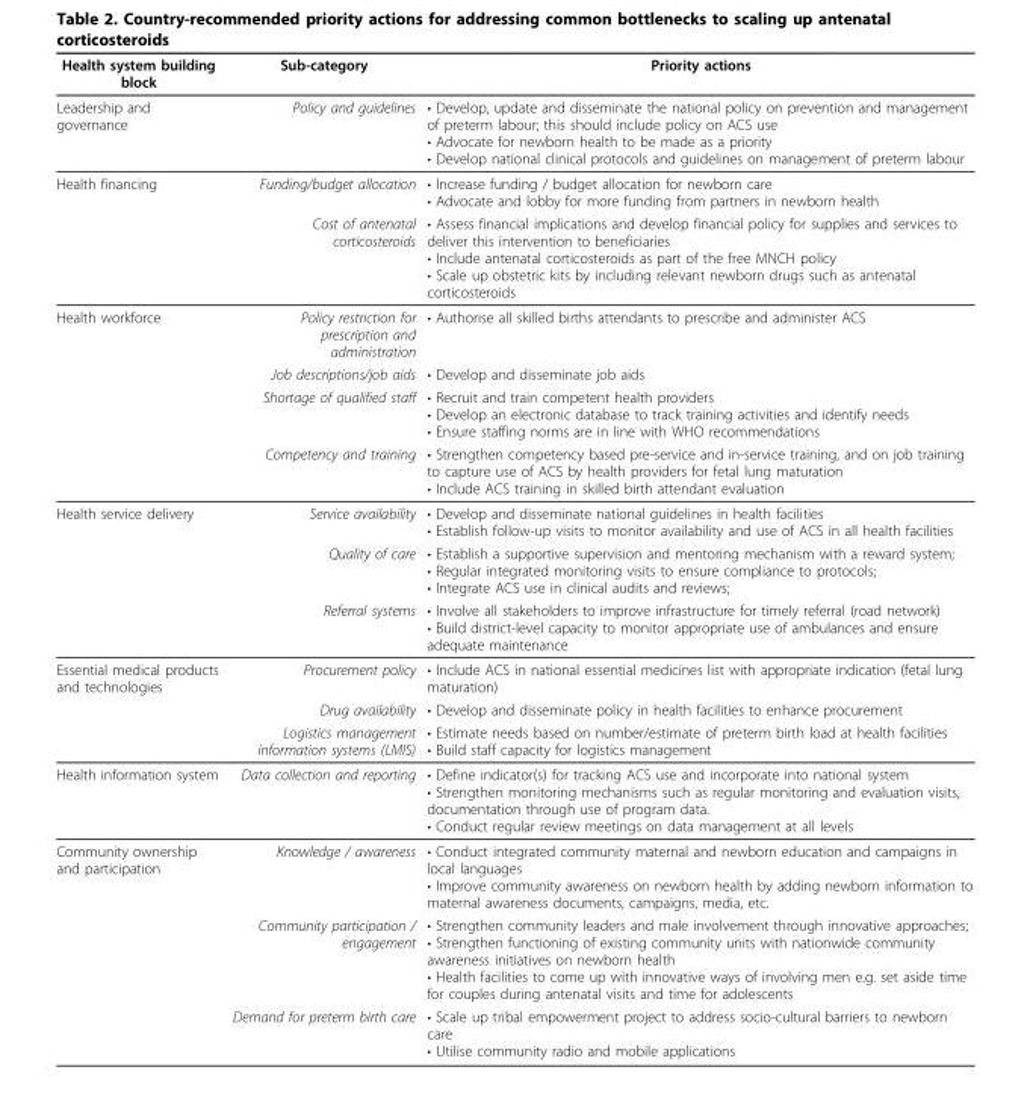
<table><thead><tr><td>Health system building block</td><td>Sub-category</td><td>Priority actions</td></tr></thead><tbody><tr><td>Leadership and governance</td><td>Policy and guidelines</td><td>• Develop, update and disseminate the national policy on prevention and management of preterm labour; this should include policy on ACS use • Advocate for newborn health to be made as a priority • Develop national clinical protocols and guidelines on management of preterm labour</td></tr><tr><td rowspan="2">Health financing</td><td>Funding/budget allocation</td><td>• Increase funding / budget allocation for newborn care • Advocate and lobby for more funding from partners in newborn health</td></tr><tr><td>Cost of antenatal corticosteroids</td><td>• Assess financial implications and develop financial policy for supplies and services to deliver this intervention to beneficiaries • Include antenatal corticosteroids as part of the free MNCH policy • Scale up obstetric kits by including relevant newborn drugs such as antenatal corticosteroids</td></tr><tr><td rowspan="4">Health workforce</td><td>Policy restriction for prescription and administration</td><td>• Authorise all skilled births attendants to prescribe and administer ACS</td></tr><tr><td>Job descriptions/job aids</td><td>• Develop and disseminate job aids</td></tr><tr><td>Shortage of qualified staff</td><td>• Recruit and train competent health providers • Develop an electronic database to track training activities and identify needs • Ensure staffing norms are in line with WHO recommendations</td></tr><tr><td>Competency and training</td><td>• Strengthen competency based pre-service and in-service training, and on job training to capture use of ACS by health providers for fetal lung maturation • Include ACS training in skilled birth attendant evaluation</td></tr><tr><td rowspan="3">Health service delivery</td><td>Service availability</td><td>• Develop and disseminate national guidelines in health facilities • Establish follow-up visits to monitor availability and use of ACS in all health facilities</td></tr><tr><td>Quality of care</td><td>• Establish a supportive supervision and mentoring mechanism with a reward system; • Regular integrated monitoring visits to ensure compliance to protocols; • Integrate ACS use in clinical audits and reviews;</td></tr><tr><td>Referral systems</td><td>• Involve all stakeholders to improve infrastructure for timely referral (road network) • Build district-level capacity to monitor appropriate use of ambulances and ensure adequate maintenance</td></tr><tr><td rowspan="3">Essential medical products and technologies</td><td>Procurement policy</td><td>• Include ACS in national essential medicines list with appropriate indication (fetal lung maturation)</td></tr><tr><td>Drug availability</td><td>• Develop and disseminate policy in health facilities to enhance procurement</td></tr><tr><td>Logistics management information systems (LMIS)</td><td>• Estimate needs based on number/estimate of preterm birth load at health facilities • Build staff capacity for logistics management</td></tr><tr><td>Health information system</td><td>Data collection and reporting</td><td>• Define indicator(s) for tracking ACS use and incorporate into national system • Strengthen monitoring mechanisms such as regular monitoring and evaluation visits, documentation through use of program data. • Conduct regular review meetings on data management at all levels</td></tr><tr><td rowspan="3">Community ownership and participation</td><td>Knowledge / awareness</td><td>• Conduct integrated community maternal and newborn education and campaigns in local languages • Improve community awareness on newborn health by adding newborn information to maternal awareness documents, campaigns, media, etc.</td></tr><tr><td>Community participation / engagement</td><td>• Strengthen community leaders and male involvement through innovative approaches; • Strengthen functioning of existing community units with nationwide community awareness initiatives on newborn health • Health facilities to come up with innovative ways of involving men e.g. set aside time for couples during antenatal visits and time for adolescents</td></tr><tr><td>Demand for preterm birth care</td><td>• Scale up tribal empowerment project to address socio-cultural barriers to newborn care • Utilise community radio and mobile applications</td></tr></tbody></table>